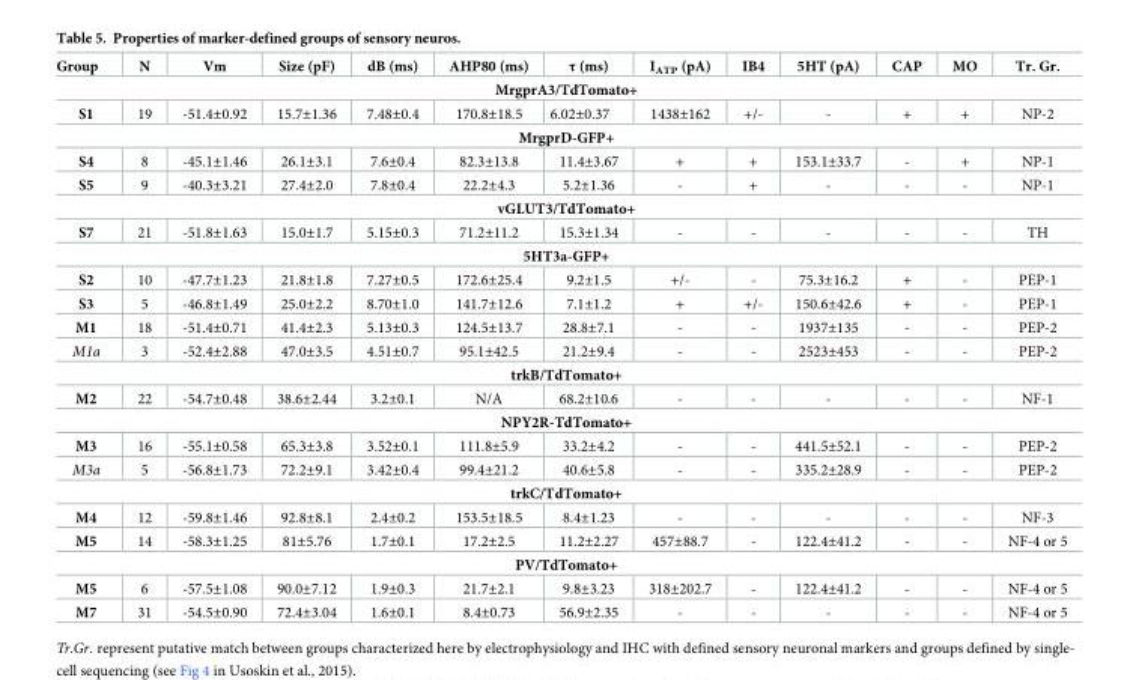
<table><thead><tr><td>Group</td><td>N</td><td>Vm</td><td>Size (pF)</td><td>dB (ms)</td><td>AHP80 (ms)</td><td>τ (ms)</td><td>I<sub>ATP</sub> (pA)</td><td>IB4</td><td>5HT (pA)</td><td>CAP</td><td>MO</td><td>Tr. Gr.</td></tr></thead><tbody><tr><td colspan="13">MrgprA3/TdTomato+</td></tr><tr><td>S1</td><td>19</td><td>-51.4±0.92</td><td>15.7±1.36</td><td>7.48±0.4</td><td>170.8±18.5</td><td>6.02±0.37</td><td>1438±162</td><td>+/-</td><td>-</td><td>+</td><td>+</td><td>NP-2</td></tr><tr><td colspan="13">MrgprD-GFP+</td></tr><tr><td>S4</td><td>8</td><td>-45.1±1.46</td><td>26.1±3.1</td><td>7.6±0.4</td><td>82.3±13.8</td><td>11.4±3.67</td><td>+</td><td>+</td><td>153.1±33.7</td><td>-</td><td>+</td><td>NP-1</td></tr><tr><td>S5</td><td>9</td><td>-40.3±3.21</td><td>27.4±2.0</td><td>7.8±0.4</td><td>22.2±4.3</td><td>5.2±1.36</td><td>-</td><td>+</td><td>-</td><td>-</td><td>-</td><td>NP-1</td></tr><tr><td colspan="13">vGLUT3/TdTomato+</td></tr><tr><td>S7</td><td>21</td><td>-51.8±1.63</td><td>15.0±1.7</td><td>5.15±0.3</td><td>71.2±11.2</td><td>15.3±1.34</td><td>-</td><td>-</td><td>-</td><td>-</td><td>-</td><td>TH</td></tr><tr><td colspan="13">5HT3a-GFP+</td></tr><tr><td>S2</td><td>10</td><td>-47.7±1.23</td><td>21.8±1.8</td><td>7.27±0.5</td><td>172.6±25.4</td><td>9.2±1.5</td><td>+/-</td><td>-</td><td>75.3±16.2</td><td>+</td><td>-</td><td>PEP-1</td></tr><tr><td>S3</td><td>5</td><td>-46.8±1.49</td><td>25.0±2.2</td><td>8.70±1.0</td><td>141.7±12.6</td><td>7.1±1.2</td><td>+</td><td>+/-</td><td>150.6±42.6</td><td>+</td><td>-</td><td>PEP-1</td></tr><tr><td>M1</td><td>18</td><td>-51.4±0.71</td><td>41.4±2.3</td><td>5.13±0.3</td><td>124.5±13.7</td><td>28.8±7.1</td><td>-</td><td>-</td><td>1937±135</td><td>-</td><td>-</td><td>PEP-2</td></tr><tr><td>M1a</td><td>3</td><td>-52.4±2.88</td><td>47.0±3.5</td><td>4.51±0.7</td><td>95.1±42.5</td><td>21.2±9.4</td><td>-</td><td>-</td><td>2523±453</td><td>-</td><td>-</td><td>PEP-2</td></tr><tr><td colspan="13">trkB/TdTomato+</td></tr><tr><td>M2</td><td>22</td><td>-54.7±0.48</td><td>38.6±2.44</td><td>3.2±0.1</td><td>N/A</td><td>68.2±10.6</td><td>-</td><td>-</td><td>-</td><td>-</td><td>-</td><td>NF-1</td></tr><tr><td colspan="13">NPY2R-TdTomato+</td></tr><tr><td>M3</td><td>16</td><td>-55.1±0.58</td><td>65.3±3.8</td><td>3.52±0.1</td><td>111.8±5.9</td><td>33.2±4.2</td><td>-</td><td>-</td><td>441.5±52.1</td><td>-</td><td>-</td><td>PEP-2</td></tr><tr><td>M3a</td><td>5</td><td>-56.8±1.73</td><td>72.2±9.1</td><td>3.42±0.4</td><td>99.4±21.2</td><td>40.6±5.8</td><td>-</td><td>-</td><td>335.2±28.9</td><td>-</td><td>-</td><td>PEP-2</td></tr><tr><td colspan="13">trkC/TdTomato+</td></tr><tr><td>M4</td><td>12</td><td>-59.8±1.46</td><td>92.8±8.1</td><td>2.4±0.2</td><td>153.5±18.5</td><td>8.4±1.23</td><td>-</td><td>-</td><td>-</td><td>-</td><td>-</td><td>NF-3</td></tr><tr><td>M5</td><td>14</td><td>-58.3±1.25</td><td>81±5.76</td><td>1.7±0.1</td><td>17.2±2.5</td><td>11.2±2.27</td><td>457±88.7</td><td>-</td><td>122.4±41.2</td><td>-</td><td>-</td><td>NF-4 or 5</td></tr><tr><td colspan="13">PV/TdTomato+</td></tr><tr><td>M5</td><td>6</td><td>-57.5±1.08</td><td>90.0±7.12</td><td>1.9±0.3</td><td>21.7±2.1</td><td>9.8±3.23</td><td>318±202.7</td><td>-</td><td>122.4±41.2</td><td>-</td><td>-</td><td>NF-4 or 5</td></tr><tr><td>M7</td><td>31</td><td>-54.5±0.90</td><td>72.4±3.04</td><td>1.6±0.1</td><td>8.4±0.73</td><td>56.9±2.35</td><td>-</td><td>-</td><td>-</td><td>-</td><td>-</td><td>NF-4 or 5</td></tr></tbody></table>